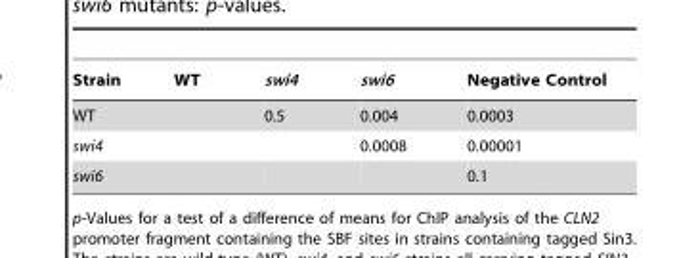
<table><thead><tr><td>Strain</td><td>WT</td><td>swi4</td><td>swi6</td><td>Negative Control</td></tr></thead><tbody><tr><td>WT</td><td></td><td>0.5</td><td>0.004</td><td>0.0003</td></tr><tr><td>swi4</td><td></td><td></td><td>0.0008</td><td>0.00001</td></tr><tr><td>swi6</td><td></td><td></td><td></td><td>0.1</td></tr></tbody></table>